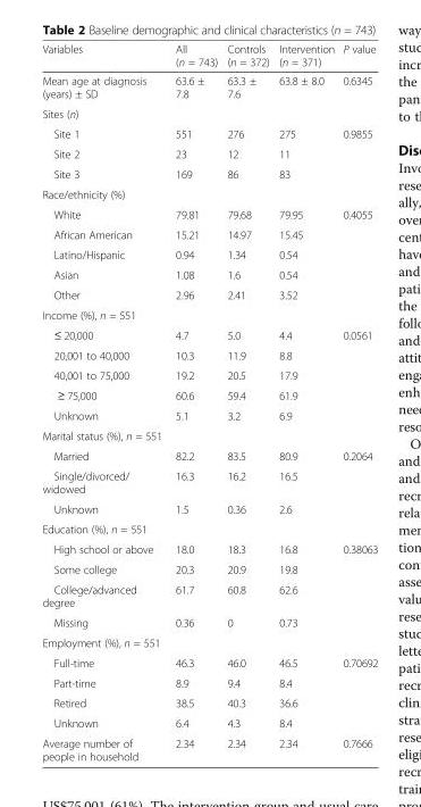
<table><thead><tr><td>Variables</td><td>All (n = 743)</td><td>Controls (n = 372)</td><td>Intervention (n = 371)</td><td>P value</td></tr></thead><tbody><tr><td>Mean age at diagnosis (years) ± SD</td><td>63.6 ± 7.8</td><td>63.3 ± 7.6</td><td>63.8 ± 8.0</td><td>0.6345</td></tr><tr><td colspan="5">Sites (n)</td></tr><tr><td>Site 1</td><td>551</td><td>276</td><td>275</td><td rowspan="3">0.9855</td></tr><tr><td>Site 2</td><td>23</td><td>12</td><td>11</td></tr><tr><td>Site 3</td><td>169</td><td>86</td><td>83</td></tr><tr><td colspan="5">Race/ethnicity (%)</td></tr><tr><td>White</td><td>79.81</td><td>79.68</td><td>79.95</td><td rowspan="5">0.4055</td></tr><tr><td>African American</td><td>15.21</td><td>14.97</td><td>15.45</td></tr><tr><td>Latino/Hispanic</td><td>0.94</td><td>1.34</td><td>0.54</td></tr><tr><td>Asian</td><td>1.08</td><td>1.6</td><td>0.54</td></tr><tr><td>Other</td><td>2.96</td><td>2.41</td><td>3.52</td></tr><tr><td colspan="5">Income (%), n = 551</td></tr><tr><td>≤ 20,000</td><td>4.7</td><td>5.0</td><td>4.4</td><td rowspan="5">0.0561</td></tr><tr><td>20,001 to 40,000</td><td>10.3</td><td>11.9</td><td>8.8</td></tr><tr><td>40,001 to 75,000</td><td>19.2</td><td>20.5</td><td>17.9</td></tr><tr><td>≥ 75,000</td><td>60.6</td><td>59.4</td><td>61.9</td></tr><tr><td>Unknown</td><td>5.1</td><td>3.2</td><td>6.9</td></tr><tr><td colspan="5">Marital status (%), n = 551</td></tr><tr><td>Married</td><td>82.2</td><td>83.5</td><td>80.9</td><td rowspan="3">0.2064</td></tr><tr><td>Single/divorced/ widowed</td><td>16.3</td><td>16.2</td><td>16.5</td></tr><tr><td>Unknown</td><td>1.5</td><td>0.36</td><td>2.6</td></tr><tr><td colspan="5">Education (%), n = 551</td></tr><tr><td>High school or above</td><td>18.0</td><td>18.3</td><td>16.8</td><td rowspan="4">0.38063</td></tr><tr><td>Some college</td><td>20.3</td><td>20.9</td><td>19.8</td></tr><tr><td>College/advanced degree</td><td>61.7</td><td>60.8</td><td>62.6</td></tr><tr><td>Missing</td><td>0.36</td><td>0</td><td>0.73</td></tr><tr><td colspan="5">Employment (%), n = 551</td></tr><tr><td>Full-time</td><td>46.3</td><td>46.0</td><td>46.5</td><td rowspan="4">0.70692</td></tr><tr><td>Part-time</td><td>8.9</td><td>9.4</td><td>8.4</td></tr><tr><td>Retired</td><td>38.5</td><td>40.3</td><td>36.6</td></tr><tr><td>Unknown</td><td>6.4</td><td>4.3</td><td>8.4</td></tr><tr><td>Average number of people in household</td><td>2.34</td><td>2.34</td><td>2.34</td><td>0.7666</td></tr></tbody></table>